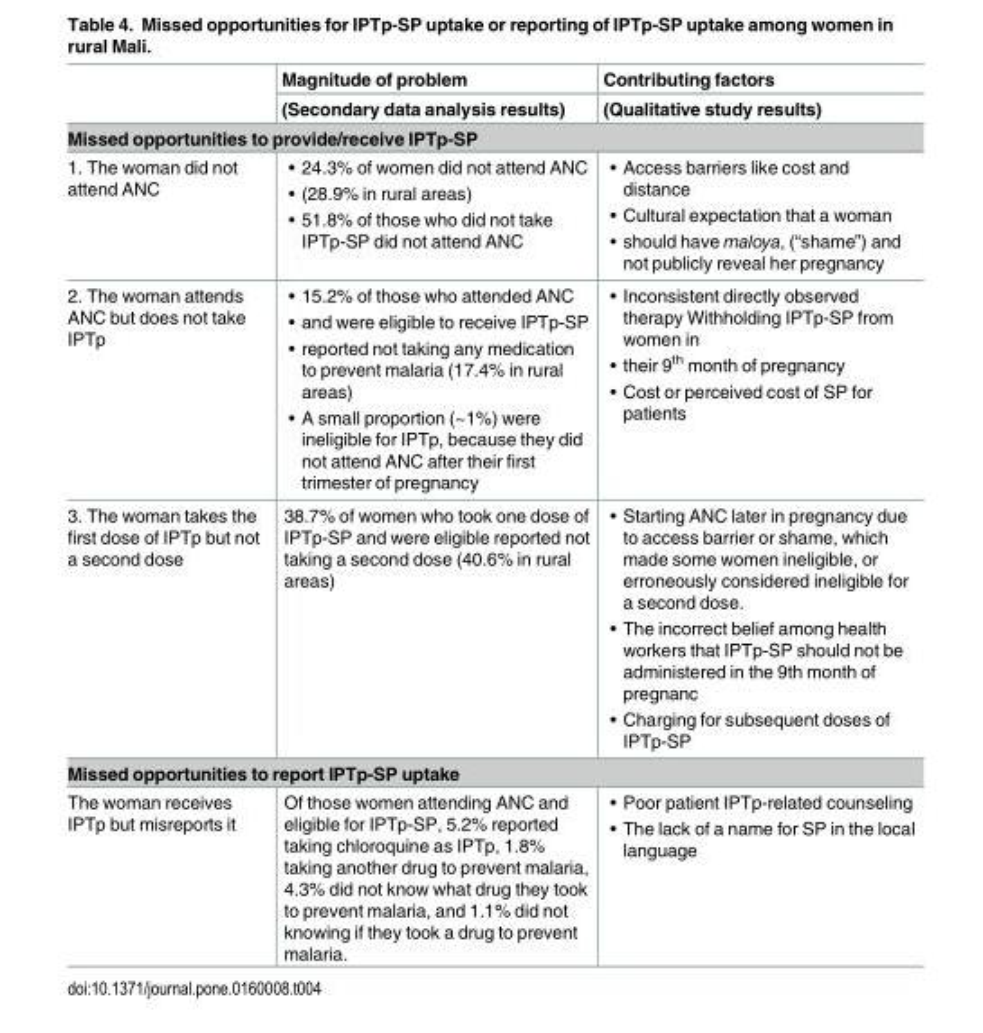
<table><thead><tr><td rowspan="2"></td><td rowspan="2">Magnitude of problem (Secondary data analysis results)</td><td rowspan="2">Contributing factors (Qualitative study results)</td></tr><tr></tr></thead><tbody><tr><td colspan="3">Missed opportunities to provide/receive IPTp-SP</td></tr><tr><td>1. The woman did not attend ANC</td><td>• 24.3% of women did not attend ANC • (28.9% in rural areas) • 51.8% of those who did not take IPTp-SP did not attend ANC</td><td>• Access barriers like cost and distance • Cultural expectation that a woman • should have maloya, (“shame”) and not publicly reveal her pregnancy</td></tr><tr><td>2. The woman attends ANC but does not take IPTp</td><td>• 15.2% of those who attended ANC • and were eligible to receive IPTp-SP • reported not taking any medication to prevent malaria (17.4% in rural areas) • A small proportion (~1%) were ineligible for IPTp, because they did not attend ANC after their first trimester of pregnancy</td><td>• Inconsistent directly observed therapy Withholding IPTp-SP from women in • their 9th month of pregnancy • Cost or perceived cost of SP for patients</td></tr><tr><td>3. The woman takes the first dose of IPTp but not a second dose</td><td>38.7% of women who took one dose of IPTp-SP and were eligible reported not taking a second dose (40.6% in rural areas)</td><td>• Starting ANC later in pregnancy due to access barrier or shame, which made some women ineligible, or erroneously considered ineligible for a second dose. • The incorrect belief among health workers that IPTp-SP should not be administered in the 9th month of pregnanc • Charging for subsequent doses of IPTp-SP</td></tr><tr><td colspan="3">Missed opportunities to report IPTp-SP uptake</td></tr><tr><td>The woman receives IPTp but misreports it</td><td>Of those women attending ANC and eligible for IPTp-SP, 5.2% reported taking chloroquine as IPTp, 1.8% taking another drug to prevent malaria, 4.3% did not know what drug they took to prevent malaria, and 1.1% did not knowing if they took a drug to prevent malaria.</td><td>• Poor patient IPTp-related counseling • The lack of a name for SP in the local language</td></tr></tbody></table>